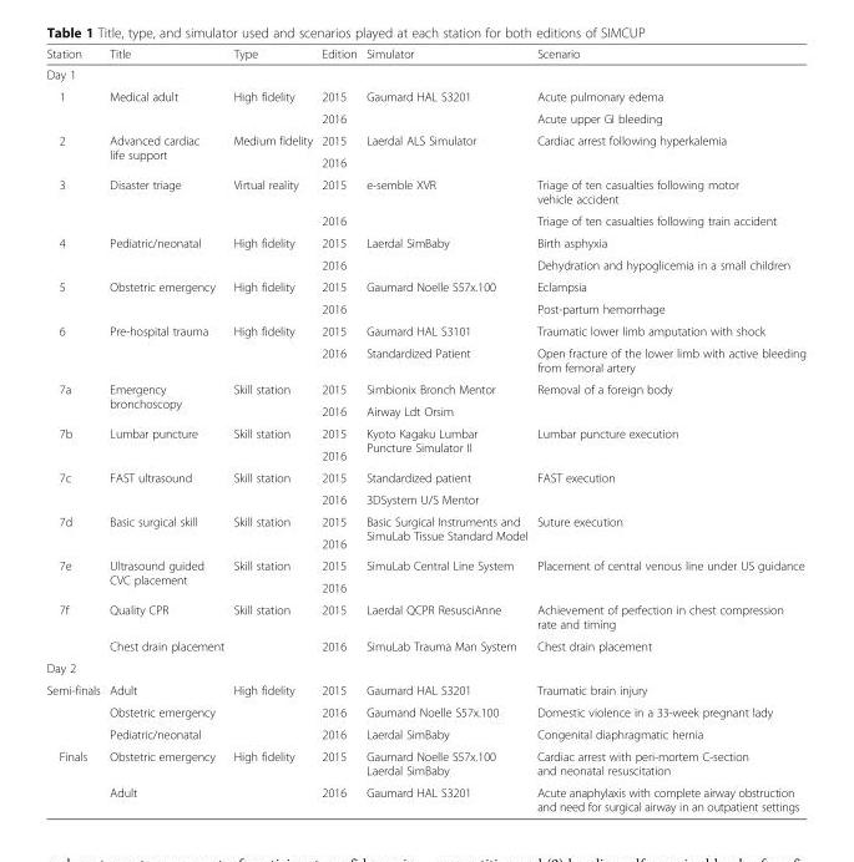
<table><thead><tr><td>Station</td><td>Title</td><td>Type</td><td>Edition</td><td>Simulator</td><td>Scenario</td></tr></thead><tbody><tr><td colspan="6">Day 1</td></tr><tr><td rowspan="2">1</td><td rowspan="2">Medical adult</td><td rowspan="2">High fidelity</td><td>2015</td><td rowspan="2">Gaumard HAL S3201</td><td>Acute pulmonary edema</td></tr><tr><td>2016</td><td>Acute upper GI bleeding</td></tr><tr><td rowspan="2">2</td><td rowspan="2">Advanced cardiac life support</td><td rowspan="2">Medium fidelity</td><td>2015</td><td rowspan="2">Laerdal ALS Simulator</td><td rowspan="2">Cardiac arrest following hyperkalemia</td></tr><tr><td>2016</td></tr><tr><td rowspan="2">3</td><td rowspan="2">Disaster triage</td><td rowspan="2">Virtual reality</td><td>2015</td><td rowspan="2">e-semble XVR</td><td>Triage of ten casualties following motor vehicle accident</td></tr><tr><td>2016</td><td>Triage of ten casualties following train accident</td></tr><tr><td rowspan="2">4</td><td rowspan="2">Pediatric/neonatal</td><td rowspan="2">High fidelity</td><td>2015</td><td rowspan="2">Laerdal SimBaby</td><td>Birth asphyxia</td></tr><tr><td>2016</td><td>Dehydration and hypoglicemia in a small children</td></tr><tr><td rowspan="2">5</td><td rowspan="2">Obstetric emergency</td><td rowspan="2">High fidelity</td><td>2015</td><td rowspan="2">Gaumard Noelle S57x.100</td><td>Eclampsia</td></tr><tr><td>2016</td><td>Post-partum hemorrhage</td></tr><tr><td rowspan="2">6</td><td rowspan="2">Pre-hospital trauma</td><td rowspan="2">High fidelity</td><td>2015</td><td>Gaumard HAL S3101</td><td>Traumatic lower limb amputation with shock</td></tr><tr><td>2016</td><td>Standardized Patient</td><td>Open fracture of the lower limb with active bleeding from femoral artery</td></tr><tr><td rowspan="2">7a</td><td rowspan="2">Emergency bronchoscopy</td><td rowspan="2">Skill station</td><td>2015</td><td>Simbionix Bronch Mentor</td><td rowspan="2">Removal of a foreign body</td></tr><tr><td>2016</td><td>Airway Ldt Orsim</td></tr><tr><td rowspan="2">7b</td><td rowspan="2">Lumbar puncture</td><td rowspan="2">Skill station</td><td>2015</td><td rowspan="2">Kyoto Kagaku Lumbar Puncture Simulator II</td><td rowspan="2">Lumbar puncture execution</td></tr><tr><td>2016</td></tr><tr><td rowspan="2">7c</td><td rowspan="2">FAST ultrasound</td><td rowspan="2">Skill station</td><td>2015</td><td>Standardized patient</td><td rowspan="2">FAST execution</td></tr><tr><td>2016</td><td>3DSystem U/S Mentor</td></tr><tr><td rowspan="2">7d</td><td rowspan="2">Basic surgical skill</td><td rowspan="2">Skill station</td><td>2015</td><td rowspan="2">Basic Surgical Instruments and SimuLab Tissue Standard Model</td><td rowspan="2">Suture execution</td></tr><tr><td>2016</td></tr><tr><td rowspan="2">7e</td><td rowspan="2">Ultrasound guided CVC placement</td><td rowspan="2">Skill station</td><td>2015</td><td rowspan="2">SimuLab Central Line System</td><td rowspan="2">Placement of central venous line under US guidance</td></tr><tr><td>2016</td></tr><tr><td rowspan="2">7f</td><td>Quality CPR</td><td rowspan="2">Skill station</td><td>2015</td><td>Laerdal QCPR ResusciAnne</td><td>Achievement of perfection in chest compression rate and timing</td></tr><tr><td>Chest drain placement</td><td>2016</td><td>SimuLab Trauma Man System</td><td>Chest drain placement</td></tr><tr><td colspan="6">Day 2</td></tr><tr><td rowspan="3">Semi-finals</td><td>Adult</td><td rowspan="3">High fidelity</td><td>2015</td><td>Gaumard HAL S3201</td><td>Traumatic brain injury</td></tr><tr><td>Obstetric emergency</td><td>2016</td><td>Gaumand Noelle S57x.100</td><td>Domestic violence in a 33-week pregnant lady</td></tr><tr><td>Pediatric/neonatal</td><td>2016</td><td>Laerdal SimBaby</td><td>Congenital diaphragmatic hernia</td></tr><tr><td rowspan="2">Finals</td><td>Obstetric emergency</td><td rowspan="2">High fidelity</td><td>2015</td><td>Gaumard Noelle S57x.100 Laerdal SimBaby</td><td>Cardiac arrest with peri-mortem C-section and neonatal resuscitation</td></tr><tr><td>Adult</td><td>2016</td><td>Gaumard HAL S3201</td><td>Acute anaphylaxis with complete airway obstruction and need for surgical airway in an outpatient settings</td></tr></tbody></table>